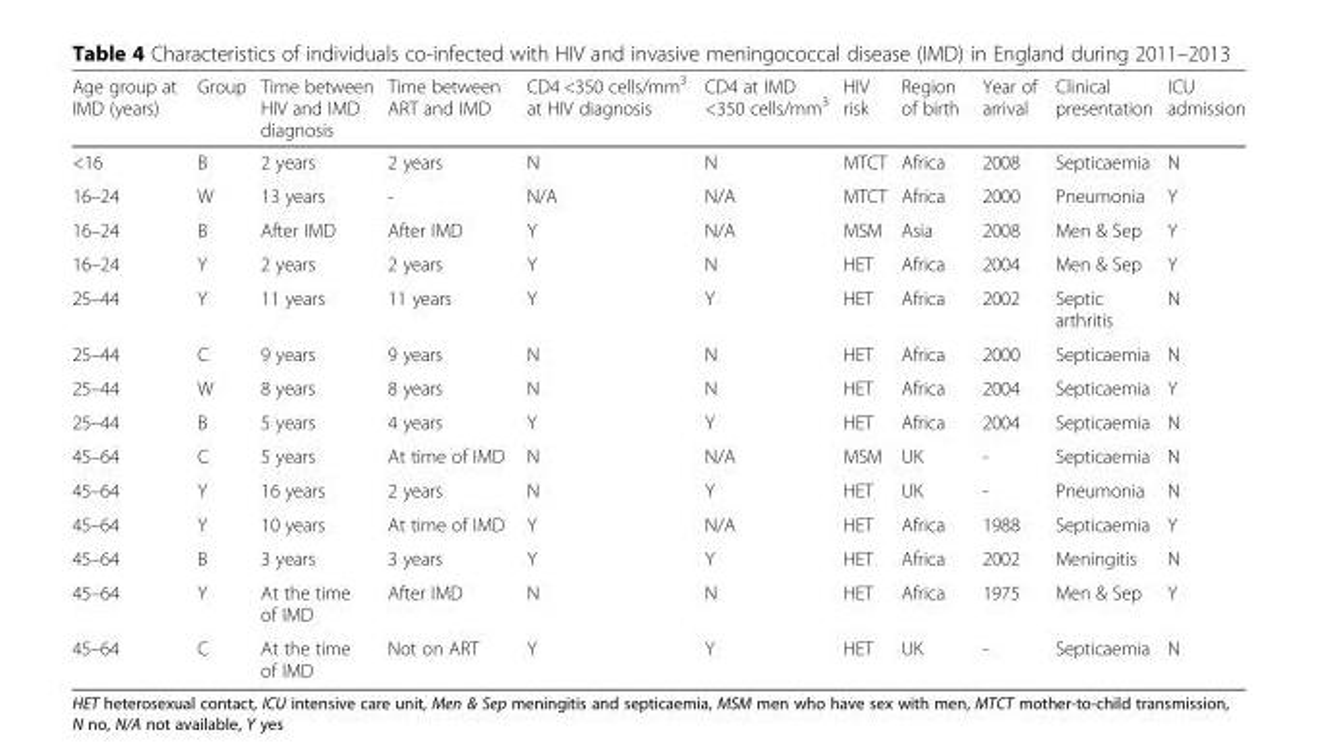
<table><thead><tr><td>Age group at IMD (years)</td><td>Group</td><td>Time between HIV and IMD diagnosis</td><td>Time between ART and IMD</td><td>CD4 &lt;350 cells/mm<sup>3</sup> at HIV diagnosis</td><td>CD4 at IMD &lt;350 cells/mm<sup>3</sup></td><td>HIV risk</td><td>Region of birth</td><td>Year of arrival</td><td>Clinical presentation</td><td>ICU admission</td></tr></thead><tbody><tr><td>&lt;16</td><td>B</td><td>2 years</td><td>2 years</td><td>N</td><td>N</td><td>MTCT</td><td>Africa</td><td>2008</td><td>Septicaemia</td><td>N</td></tr><tr><td>16–24</td><td>W</td><td>13 years</td><td>-</td><td>N/A</td><td>N/A</td><td>MTCT</td><td>Africa</td><td>2000</td><td>Pneumonia</td><td>Y</td></tr><tr><td>16–24</td><td>B</td><td>After IMD</td><td>After IMD</td><td>Y</td><td>N/A</td><td>MSM</td><td>Asia</td><td>2008</td><td>Men &amp; Sep</td><td>Y</td></tr><tr><td>16–24</td><td>Y</td><td>2 years</td><td>2 years</td><td>Y</td><td>N</td><td>HET</td><td>Africa</td><td>2004</td><td>Men &amp; Sep</td><td>Y</td></tr><tr><td>25–44</td><td>Y</td><td>11 years</td><td>11 years</td><td>Y</td><td>Y</td><td>HET</td><td>Africa</td><td>2002</td><td>Septic arthritis</td><td>N</td></tr><tr><td>25–44</td><td>C</td><td>9 years</td><td>9 years</td><td>N</td><td>N</td><td>HET</td><td>Africa</td><td>2000</td><td>Septicaemia</td><td>N</td></tr><tr><td>25–44</td><td>W</td><td>8 years</td><td>8 years</td><td>N</td><td>N</td><td>HET</td><td>Africa</td><td>2004</td><td>Septicaemia</td><td>Y</td></tr><tr><td>25–44</td><td>B</td><td>5 years</td><td>4 years</td><td>Y</td><td>Y</td><td>HET</td><td>Africa</td><td>2004</td><td>Septicaemia</td><td>N</td></tr><tr><td>45–64</td><td>C</td><td>5 years</td><td>At time of IMD</td><td>N</td><td>N/A</td><td>MSM</td><td>UK</td><td>-</td><td>Septicaemia</td><td>N</td></tr><tr><td>45–64</td><td>Y</td><td>16 years</td><td>2 years</td><td>N</td><td>Y</td><td>HET</td><td>UK</td><td>-</td><td>Pneumonia</td><td>N</td></tr><tr><td>45–64</td><td>Y</td><td>10 years</td><td>At time of IMD</td><td>Y</td><td>N/A</td><td>HET</td><td>Africa</td><td>1988</td><td>Septicaemia</td><td>Y</td></tr><tr><td>45–64</td><td>B</td><td>3 years</td><td>3 years</td><td>Y</td><td>Y</td><td>HET</td><td>Africa</td><td>2002</td><td>Meningitis</td><td>N</td></tr><tr><td>45–64</td><td>Y</td><td>At the time of IMD</td><td>After IMD</td><td>N</td><td>N</td><td>HET</td><td>Africa</td><td>1975</td><td>Men &amp; Sep</td><td>Y</td></tr><tr><td>45–64</td><td>C</td><td>At the time of IMD</td><td>Not on ART</td><td>Y</td><td>Y</td><td>HET</td><td>UK</td><td>-</td><td>Septicaemia</td><td>N</td></tr></tbody></table>